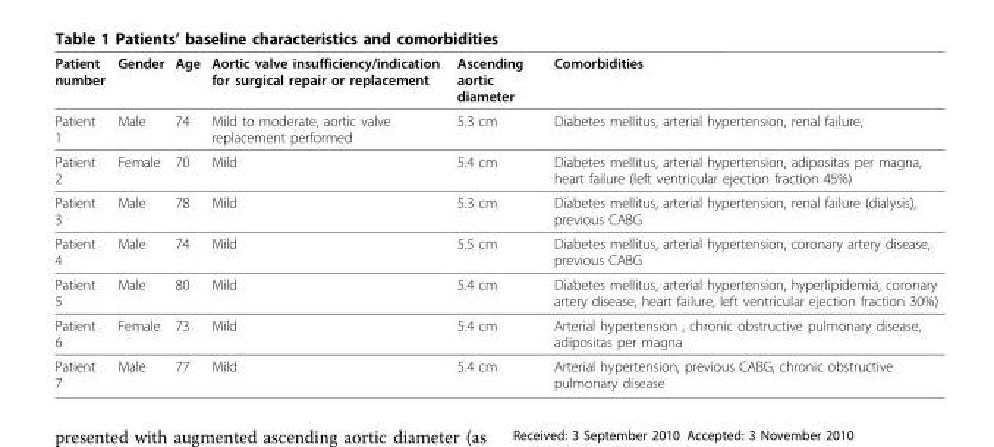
<table><thead><tr><td>Patient number</td><td>Gender</td><td>Age</td><td>Aortic valve insufficiency/indication for surgical repair or replacement</td><td>Ascending aortic diameter</td><td>Comorbidities</td></tr></thead><tbody><tr><td>Patient 1</td><td>Male</td><td>74</td><td>Mild to moderate, aortic valve replacement performed</td><td>5.3 cm</td><td>Diabetes mellitus, arterial hypertension, renal failure,</td></tr><tr><td>Patient 2</td><td>Female</td><td>70</td><td>Mild</td><td>5.4 cm</td><td>Diabetes mellitus, arterial hypertension, adipositas per magna, heart failure (left ventricular ejection fraction 45%)</td></tr><tr><td>Patient 3</td><td>Male</td><td>78</td><td>Mild</td><td>5.3 cm</td><td>Diabetes mellitus, arterial hypertension, renal failure (dialysis), previous CABG</td></tr><tr><td>Patient 4</td><td>Male</td><td>74</td><td>Mild</td><td>5.5 cm</td><td>Diabetes mellitus, arterial hypertension, coronary artery disease, previous CABG</td></tr><tr><td>Patient 5</td><td>Male</td><td>80</td><td>Mild</td><td>5.4 cm</td><td>Diabetes mellitus, arterial hypertension, hyperlipidemia, coronary artery disease, heart failure, left ventricular ejection fraction 30%)</td></tr><tr><td>Patient 6</td><td>Female</td><td>73</td><td>Mild</td><td>5.4 cm</td><td>Arterial hypertension , chronic obstructive pulmonary disease, adipositas per magna</td></tr><tr><td>Patient 7</td><td>Male</td><td>77</td><td>Mild</td><td>5.4 cm</td><td>Arterial hypertension, previous CABG, chronic obstructive pulmonary disease</td></tr></tbody></table>